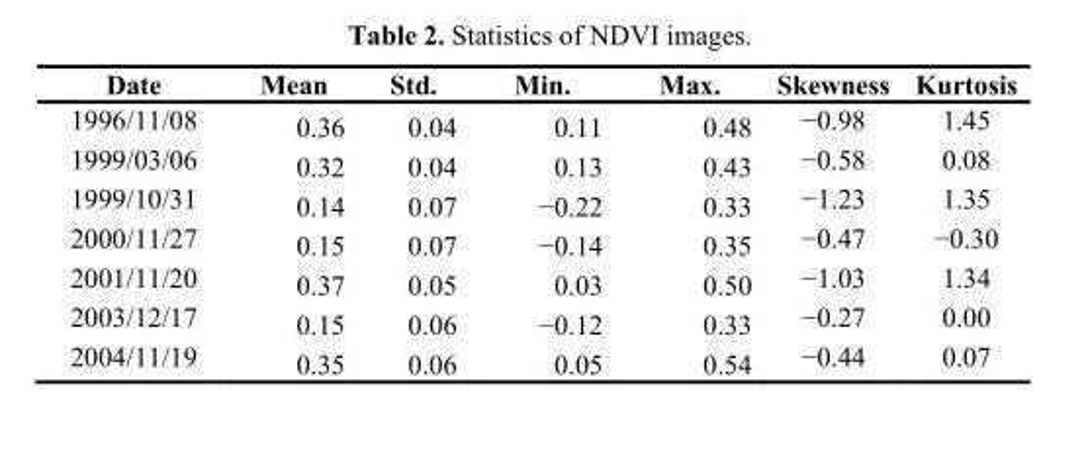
<table><thead><tr><td>Date</td><td>Mean</td><td>Std.</td><td>Min.</td><td>Max.</td><td>Skewness</td><td>Kurtosis</td></tr></thead><tbody><tr><td>1996/11/08</td><td>0.36</td><td>0.04</td><td>0.11</td><td>0.48</td><td>−0.98</td><td>1.45</td></tr><tr><td>1999/03/06</td><td>0.32</td><td>0.04</td><td>0.13</td><td>0.43</td><td>−0.58</td><td>0.08</td></tr><tr><td>1999/10/31</td><td>0.14</td><td>0.07</td><td>−0.22</td><td>0.33</td><td>−1.23</td><td>1.35</td></tr><tr><td>2000/11/27</td><td>0.15</td><td>0.07</td><td>−0.14</td><td>0.35</td><td>−0.47</td><td>−0.30</td></tr><tr><td>2001/11/20</td><td>0.37</td><td>0.05</td><td>0.03</td><td>0.50</td><td>−1.03</td><td>1.34</td></tr><tr><td>2003/12/17</td><td>0.15</td><td>0.06</td><td>−0.12</td><td>0.33</td><td>−0.27</td><td>0.00</td></tr><tr><td>2004/11/19</td><td>0.35</td><td>0.06</td><td>0.05</td><td>0.54</td><td>−0.44</td><td>0.07</td></tr></tbody></table>